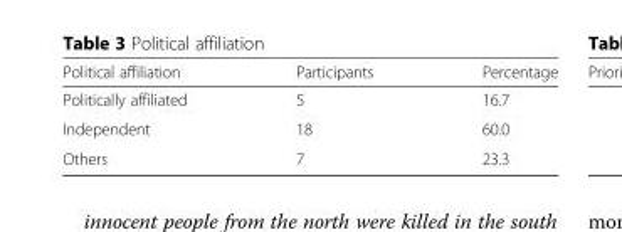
<table><thead><tr><td>Political affiliation</td><td>Participants</td><td>Percentage</td></tr></thead><tbody><tr><td>Politically affiliated</td><td>5</td><td>16.7</td></tr><tr><td>Independent</td><td>18</td><td>60.0</td></tr><tr><td>Others</td><td>7</td><td>23.3</td></tr></tbody></table>